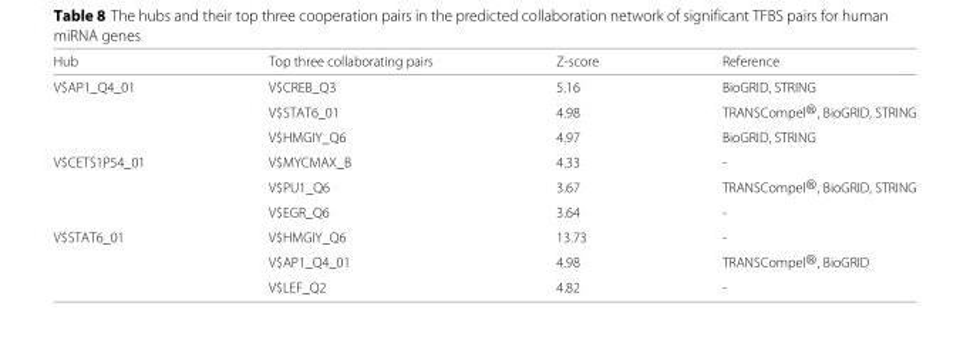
<table><thead><tr><td>Hub</td><td>Top three collaborating pairs</td><td>Z-score</td><td>Reference</td></tr></thead><tbody><tr><td rowspan="3">V$AP1_Q4_01</td><td>V$CREB_Q3</td><td>5.16</td><td>BioGRID, STRING</td></tr><tr><td>V$STAT6_01</td><td>4.98</td><td>TRANSCompel®, BioGRID, STRING</td></tr><tr><td>V$HMGIY_Q6</td><td>4.97</td><td>BioGRID, STRING</td></tr><tr><td rowspan="3">V$CETS1P54_01</td><td>V$MYCMAX_B</td><td>4.33</td><td>-</td></tr><tr><td>V$PU1_Q6</td><td>3.67</td><td>TRANSCompel®, BioGRID, STRING</td></tr><tr><td>V$EGR_Q6</td><td>3.64</td><td>-</td></tr><tr><td rowspan="3">V$STAT6_01</td><td>V$HMGIY_Q6</td><td>13.73</td><td>-</td></tr><tr><td>V$AP1_Q4_01</td><td>4.98</td><td>TRANSCompel®, BioGRID</td></tr><tr><td>V$LEF_Q2</td><td>4.82</td><td>-</td></tr></tbody></table>